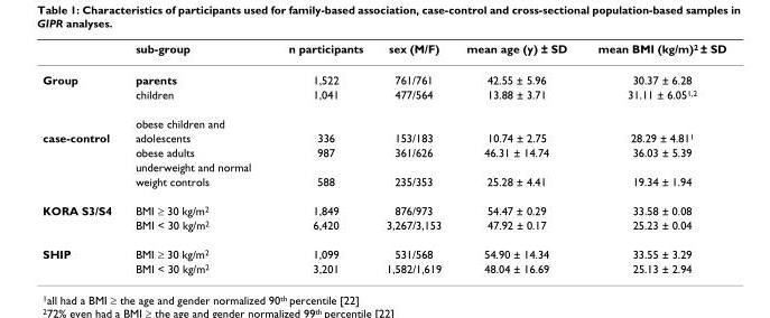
<table><thead><tr><td></td><td>sub-group</td><td>n participants</td><td>sex (M/F)</td><td>mean age (y) ± SD</td><td>mean BMI (kg/m)<sup>2</sup> ± SD</td></tr></thead><tbody><tr><td rowspan="3">Group</td><td>parents</td><td>1,522</td><td>761/761</td><td>42.55 ± 5.96</td><td>30.37 ± 6.28</td></tr><tr><td>children</td><td>1,041</td><td>477/564</td><td>13.88 ± 3.71</td><td>31.11 ± 6.05<sup>1,2</sup></td></tr><tr><td>obese children and</td><td></td><td></td><td></td><td></td></tr><tr><td rowspan="4">case-control</td><td>adolescents</td><td>336</td><td>153/183</td><td>10.74 ± 2.75</td><td>28.29 ± 4.81<sup>1</sup></td></tr><tr><td>obese adults</td><td>987</td><td>361/626</td><td>46.31 ± 14.74</td><td>36.03 ± 5.39</td></tr><tr><td>underweight and normal</td><td></td><td></td><td></td><td></td></tr><tr><td>weight controls</td><td>588</td><td>235/353</td><td>25.28 ± 4.41</td><td>19.34 ± 1.94</td></tr><tr><td rowspan="2">KORA S3/S4</td><td>BMI ≥ 30 kg/m<sup>2</sup></td><td>1,849</td><td>876/973</td><td>54.47 ± 0.29</td><td>33.58 ± 0.08</td></tr><tr><td>BMI &lt; 30 kg/m<sup>2</sup></td><td>6,420</td><td>3,267/3,153</td><td>47.92 ± 0.17</td><td>25.23 ± 0.04</td></tr><tr><td rowspan="2">SHIP</td><td>BMI ≥ 30 kg/m<sup>2</sup></td><td>1,099</td><td>531/568</td><td>54.90 ± 14.34</td><td>33.55 ± 3.29</td></tr><tr><td>BMI &lt; 30 kg/m<sup>2</sup></td><td>3,201</td><td>1,582/1,619</td><td>48.04 ± 16.69</td><td>25.13 ± 2.94</td></tr></tbody></table>